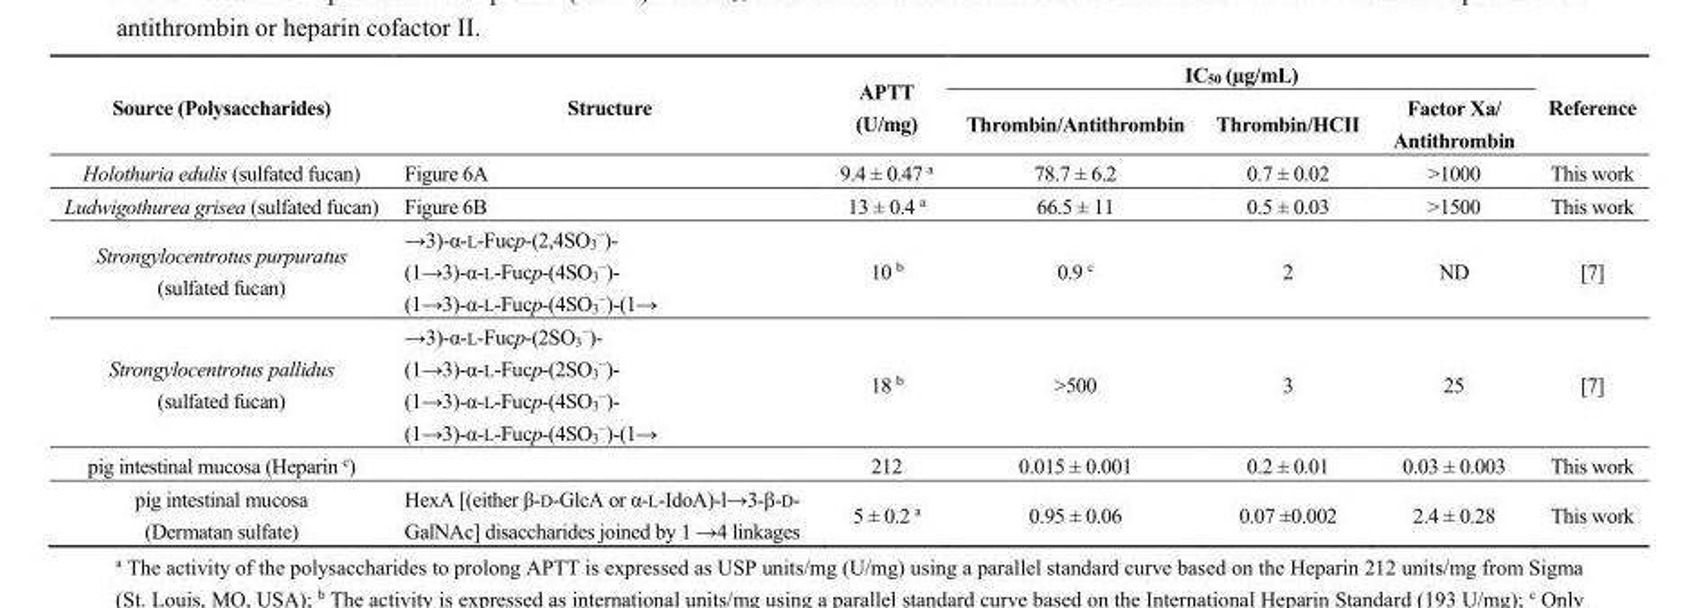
<table><thead><tr><td rowspan="2">Source (Polysaccharides)</td><td rowspan="2">Structure</td><td rowspan="2">APTT (U/mg)</td><td colspan="3">IC<sub>50</sub> (µg/mL)</td><td rowspan="2">Reference</td></tr><tr><td>Thrombin/Antithrombin</td><td>Thrombin/HCII</td><td>Factor Xa/ Antithrombin</td></tr></thead><tbody><tr><td>Holothuria edulis (sulfated fucan)</td><td>Figure 6A</td><td>9.4 ± 0.47 <sup>a</sup></td><td>78.7 ± 6.2</td><td>0.7 ± 0.02</td><td>&gt;1000</td><td>This work</td></tr><tr><td>Ludwigothurea grisea (sulfated fucan)</td><td>Figure 6B</td><td>13 ± 0.4 <sup>a</sup></td><td>66.5 ± 11</td><td>0.5 ± 0.03</td><td>&gt;1500</td><td>This work</td></tr><tr><td>Strongylocentrotus purpuratus (sulfated fucan)</td><td>→3)-α-L-Fucp-(2,4SO<sub>3</sub><sup>−</sup>)- (1→3)-α-L-Fucp-(4SO<sub>3</sub><sup>−</sup>)- (1→3)-α-L-Fucp-(4SO<sub>3</sub><sup>−</sup>)-(1→</td><td>10 <sup>b</sup></td><td>0.9 <sup>c</sup></td><td>2</td><td>ND</td><td>[7]</td></tr><tr><td>Strongylocentrotus pallidus (sulfated fucan)</td><td>→3)-α-L-Fucp-(2SO<sub>3</sub><sup>−</sup>)- (1→3)-α-L-Fucp-(2SO<sub>3</sub><sup>−</sup>)- (1→3)-α-L-Fucp-(4SO<sub>3</sub><sup>−</sup>)- (1→3)-α-L-Fucp-(4SO<sub>3</sub><sup>−</sup>)-(1→</td><td>18 <sup>b</sup></td><td>&gt;500</td><td>3</td><td>25</td><td>[7]</td></tr><tr><td>pig intestinal mucosa (Heparin <sup>c</sup>)</td><td></td><td>212</td><td>0.015 ± 0.001</td><td>0.2 ± 0.01</td><td>0.03 ± 0.003</td><td>This work</td></tr><tr><td>pig intestinal mucosa (Dermatan sulfate)</td><td>HexA [(either β-D-GlcA or α-L-IdoA)-l→3-β-D- GalNAc] disaccharides joined by 1 →4 linkages</td><td>5 ± 0.2 <sup>a</sup></td><td>0.95 ± 0.06</td><td>0.07 ±0.002</td><td>2.4 ± 0.28</td><td>This work</td></tr></tbody></table>